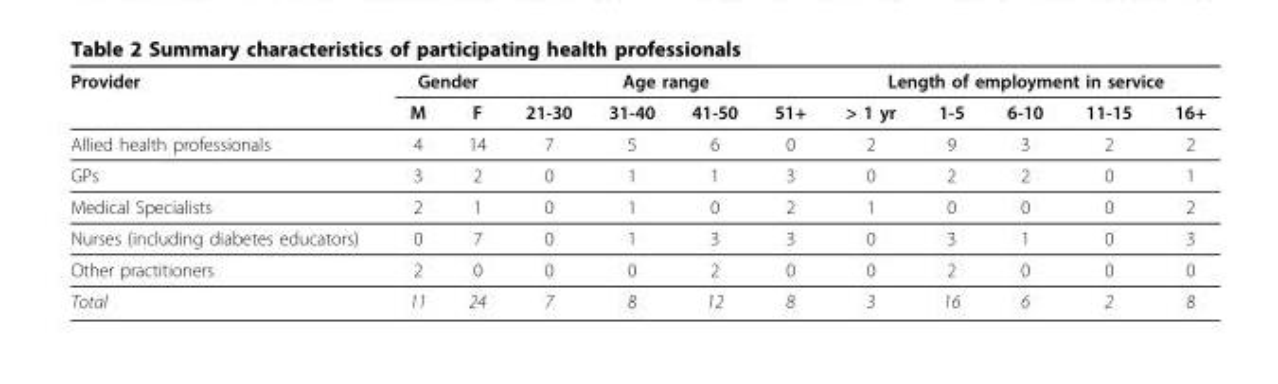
<table><thead><tr><td rowspan="2">Provider</td><td colspan="2">Gender</td><td colspan="4">Age range</td><td colspan="5">Length of employment in service</td></tr><tr><td>M</td><td>F</td><td>21-30</td><td>31-40</td><td>41-50</td><td>51+</td><td>&gt; 1 yr</td><td>1-5</td><td>6-10</td><td>11-15</td><td>16+</td></tr></thead><tbody><tr><td>Allied health professionals</td><td>4</td><td>14</td><td>7</td><td>5</td><td>6</td><td>0</td><td>2</td><td>9</td><td>3</td><td>2</td><td>2</td></tr><tr><td>GPs</td><td>3</td><td>2</td><td>0</td><td>1</td><td>1</td><td>3</td><td>0</td><td>2</td><td>2</td><td>0</td><td>1</td></tr><tr><td>Medical Specialists</td><td>2</td><td>1</td><td>0</td><td>1</td><td>0</td><td>2</td><td>1</td><td>0</td><td>0</td><td>0</td><td>2</td></tr><tr><td>Nurses (including diabetes educators)</td><td>0</td><td>7</td><td>0</td><td>1</td><td>3</td><td>3</td><td>0</td><td>3</td><td>1</td><td>0</td><td>3</td></tr><tr><td>Other practitioners</td><td>2</td><td>0</td><td>0</td><td>0</td><td>2</td><td>0</td><td>0</td><td>2</td><td>0</td><td>0</td><td>0</td></tr><tr><td>Total</td><td>11</td><td>24</td><td>7</td><td>8</td><td>12</td><td>8</td><td>3</td><td>16</td><td>6</td><td>2</td><td>8</td></tr></tbody></table>